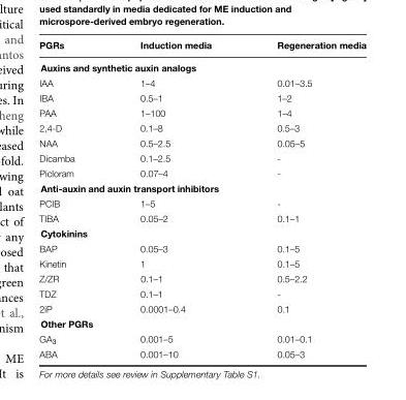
<table><thead><tr><td>PGRs</td><td>Induction media</td><td>Regeneration media</td></tr></thead><tbody><tr><td colspan="3">Auxins and synthetic auxin analogs</td></tr><tr><td>IAA</td><td>1–4</td><td>0.01–3.5</td></tr><tr><td>IBA</td><td>0.5–1</td><td>1–2</td></tr><tr><td>PAA</td><td>1–100</td><td>1–4</td></tr><tr><td>2,4-D</td><td>0.1–8</td><td>0.5–3</td></tr><tr><td>NAA</td><td>0.5–2.5</td><td>0.05–5</td></tr><tr><td>Dicamba</td><td>0.1–2.5</td><td>-</td></tr><tr><td>Picloram</td><td>0.07–4</td><td>-</td></tr><tr><td colspan="3">Anti-auxin and auxin transport inhibitors</td></tr><tr><td>PCIB</td><td>1–5</td><td>-</td></tr><tr><td>TIBA</td><td>0.05–2</td><td>0.1–1</td></tr><tr><td colspan="3">Cytokinins</td></tr><tr><td>BAP</td><td>0.05–3</td><td>0.1–5</td></tr><tr><td>Kinetin</td><td>1</td><td>0.1–5</td></tr><tr><td>Z/ZR</td><td>0.1–1</td><td>0.5–2.2</td></tr><tr><td>TDZ</td><td>0.1–1</td><td>-</td></tr><tr><td>2iP</td><td>0.0001–0.4</td><td>0.1</td></tr><tr><td colspan="3">Other PGRs</td></tr><tr><td>GA<sub>3</sub></td><td>0.001–5</td><td>0.01–0.1</td></tr><tr><td>ABA</td><td>0.001–10</td><td>0.05–3</td></tr></tbody></table>